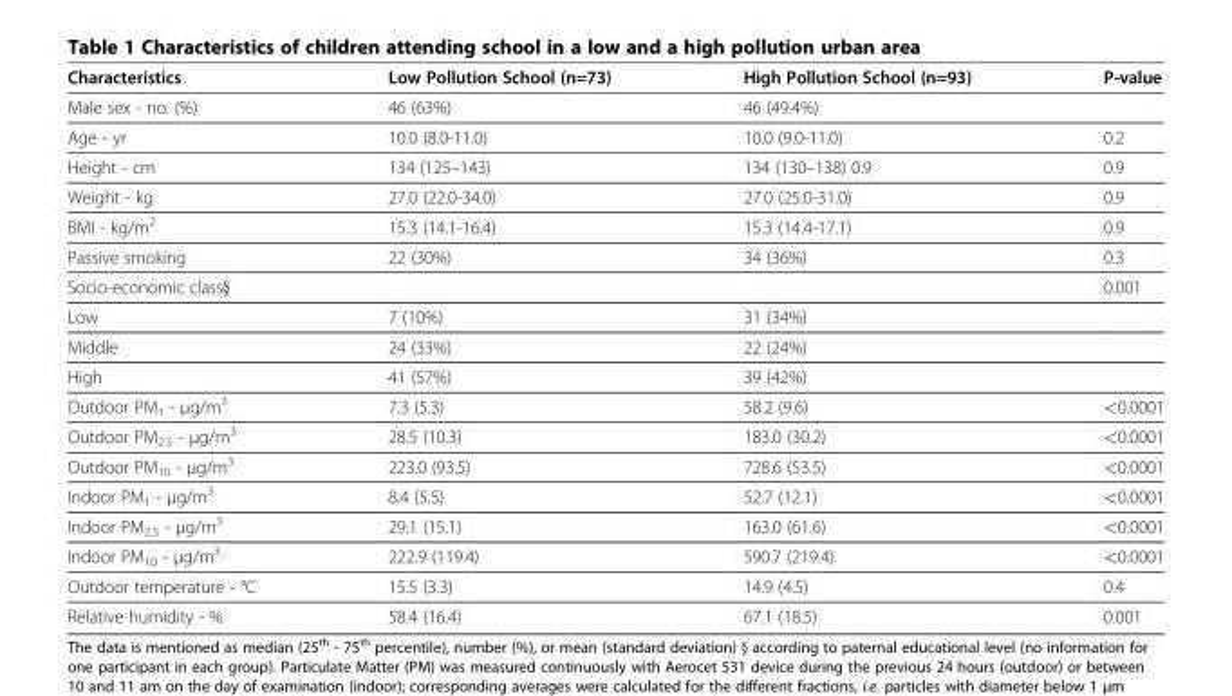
<table><thead><tr><td>Characteristics</td><td>Low Pollution School (n=73)</td><td>High Pollution School (n=93)</td><td>P-value</td></tr></thead><tbody><tr><td>Male sex - no. (%)</td><td>46 (63%)</td><td>46 (49.4%)</td><td></td></tr><tr><td>Age - yr</td><td>10.0 (8.0-11.0)</td><td>10.0 (9.0-11.0)</td><td>0.2</td></tr><tr><td>Height - cm</td><td>134 (125–143)</td><td>134 (130–138) 0.9</td><td>0.9</td></tr><tr><td>Weight - kg</td><td>27.0 (22.0-34.0)</td><td>27.0 (25.0-31.0)</td><td>0.9</td></tr><tr><td>BMI - kg/m<sup>2</sup></td><td>15.3 (14.1-16.4)</td><td>15.3 (14.4-17.1)</td><td>0.9</td></tr><tr><td>Passive smoking</td><td>22 (30%)</td><td>34 (36%)</td><td>0.3</td></tr><tr><td>Socio-economic class§</td><td></td><td></td><td>0.001</td></tr><tr><td>Low</td><td>7 (10%)</td><td>31 (34%)</td><td></td></tr><tr><td>Middle</td><td>24 (33%)</td><td>22 (24%)</td><td></td></tr><tr><td>High</td><td>41 (57%)</td><td>39 (42%)</td><td></td></tr><tr><td>Outdoor PM<sub>1</sub> - μg/m<sup>3</sup></td><td>7.3 (5.3)</td><td>58.2 (9.6)</td><td>&lt;0.0001</td></tr><tr><td>Outdoor PM<sub>2.5</sub> - μg/m<sup>3</sup></td><td>28.5 (10.3)</td><td>183.0 (30.2)</td><td>&lt;0.0001</td></tr><tr><td>Outdoor PM<sub>10</sub> - μg/m<sup>3</sup></td><td>223.0 (93.5)</td><td>728.6 (53.5)</td><td>&lt;0.0001</td></tr><tr><td>Indoor PM<sub>1</sub> - μg/m<sup>3</sup></td><td>8.4 (5.5)</td><td>52.7 (12.1)</td><td>&lt;0.0001</td></tr><tr><td>Indoor PM<sub>2.5</sub> - μg/m<sup>3</sup></td><td>29.1 (15.1)</td><td>163.0 (61.6)</td><td>&lt;0.0001</td></tr><tr><td>Indoor PM<sub>10</sub> - μg/m<sup>3</sup></td><td>222.9 (119.4)</td><td>590.7 (219.4)</td><td>&lt;0.0001</td></tr><tr><td>Outdoor temperature - °C</td><td>15.5 (3.3)</td><td>14.9 (4.5)</td><td>0.4</td></tr><tr><td>Relative humidity - %</td><td>58.4 (16.4)</td><td>67.1 (18.5)</td><td>0.001</td></tr></tbody></table>